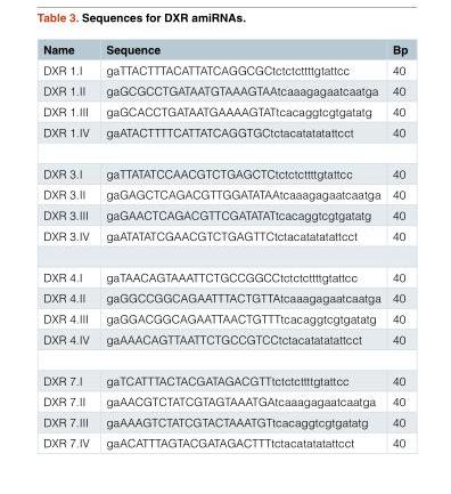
<table><thead><tr><td>Name</td><td>Sequence</td><td>Bp</td></tr></thead><tbody><tr><td>DXR 1.I</td><td>gaTTACTTTACATTATCAGGCGCtctctcttttgtattcc</td><td>40</td></tr><tr><td>DXR 1.II</td><td>gaGCGCCTGATAATGTAAAGTAAtcaaagagaatcaatga</td><td>40</td></tr><tr><td>DXR 1.III</td><td>gaGCACCTGATAATGAAAAGTATtcacaggtcgtgatatg</td><td>40</td></tr><tr><td>DXR 1.IV</td><td>gaATACTTTTCATTATCAGGTGCtctacatatatattcct</td><td>40</td></tr><tr><td>DXR 3.I</td><td>gaTTATATCCAACGTCTGAGCTCtctctcttttgtattcc</td><td>40</td></tr><tr><td>DXR 3.II</td><td>gaGAGCTCAGACGTTGGATATAAtcaaagagaatcaatga</td><td>40</td></tr><tr><td>DXR 3.III</td><td>gaGAACTCAGACGTTCGATATATtcacaggtcgtgatatg</td><td>40</td></tr><tr><td>DXR 3.IV</td><td>gaATATATCGAACGTCTGAGTTCtctacatatatattcct</td><td>40</td></tr><tr><td>DXR 4.I</td><td>gaTAACAGTAAATTCTGCCGGCCtctctcttttgtattcc</td><td>40</td></tr><tr><td>DXR 4.II</td><td>gaGGCCGGCAGAATTTACTGTTAtcaaagagaatcaatga</td><td>40</td></tr><tr><td>DXR 4.III</td><td>gaGGACGGCAGAATTAACTGTTTtcacaggtcgtgatatg</td><td>40</td></tr><tr><td>DXR 4.IV</td><td>gaAAACAGTTAATTCTGCCGTCCtctacatatatattcct</td><td>40</td></tr><tr><td>DXR 7.I</td><td>gaTCATTTACTACGATAGACGTTtctctcttttgtattcc</td><td>40</td></tr><tr><td>DXR 7.II</td><td>gaAACGTCTATCGTAGTAAATGAtcaaagagaatcaatga</td><td>40</td></tr><tr><td>DXR 7.III</td><td>gaAAAGTCTATCGTACTAAATGTtcacaggtcgtgatatg</td><td>40</td></tr><tr><td>DXR 7.IV</td><td>gaACATTTAGTACGATAGACTTTtctacatatatattcct</td><td>40</td></tr></tbody></table>